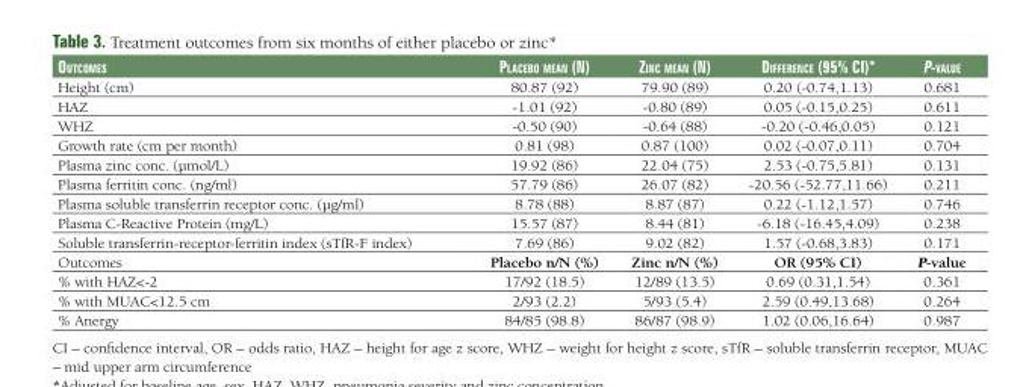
<table><thead><tr><td>outComes</td><td>PlaCebo mean (n)</td><td>ZinC mean (n)</td><td>DifferenCe (95% Ci)*</td><td>P-value</td></tr></thead><tbody><tr><td>Height (cm)</td><td>80.87 (92)</td><td>79.90 (89)</td><td>0.20 (-0.74,1.13)</td><td>0.681</td></tr><tr><td>HAZ</td><td>-1.01 (92)</td><td>-0.80 (89)</td><td>0.05 (-0.15,0.25)</td><td>0.611</td></tr><tr><td>WHZ</td><td>-0.50 (90)</td><td>-0.64 (88)</td><td>-0.20 (-0.46,0.05)</td><td>0.121</td></tr><tr><td>Growth rate (cm per month)</td><td>0.81 (98)</td><td>0.87 (100)</td><td>0.02 (-0.07,0.11)</td><td>0.704</td></tr><tr><td>Plasma zinc conc. (µmol/L)</td><td>19.92 (86)</td><td>22.04 (75)</td><td>2.53 (-0.75,5.81)</td><td>0.131</td></tr><tr><td>Plasma ferritin conc. (ng/ml)</td><td>57.79 (86)</td><td>26.07 (82)</td><td>-20.56 (-52.77,11.66)</td><td>0.211</td></tr><tr><td>Plasma soluble transferrin receptor conc. (µg/ml)</td><td>8.78 (88)</td><td>8.87 (87)</td><td>0.22 (-1.12,1.57)</td><td>0.746</td></tr><tr><td>Plasma C-Reactive Protein (mg/L)</td><td>15.57 (87)</td><td>8.44 (81)</td><td>-6.18 (-16.45,4.09)</td><td>0.238</td></tr><tr><td>Soluble transferrin-receptor-ferritin index (sTfR-F index)</td><td>7.69 (86)</td><td>9.02 (82)</td><td>1.57 (-0.68,3.83)</td><td>0.171</td></tr><tr><td>Outcomes</td><td>Placebo n/N (%)</td><td>Zinc n/N (%)</td><td>OR (95% CI)</td><td>P-value</td></tr><tr><td>% with HAZ&lt;-2</td><td>17/92 (18.5)</td><td>12/89 (13.5)</td><td>0.69 (0.31,1.54)</td><td>0.361</td></tr><tr><td>% with MUAC&lt;12.5 cm</td><td>2/93 (2.2)</td><td>5/93 (5.4)</td><td>2.59 (0.49,13.68)</td><td>0.264</td></tr><tr><td>% Anergy</td><td>84/85 (98.8)</td><td>86/87 (98.9)</td><td>1.02 (0.06,16.64)</td><td>0.987</td></tr></tbody></table>